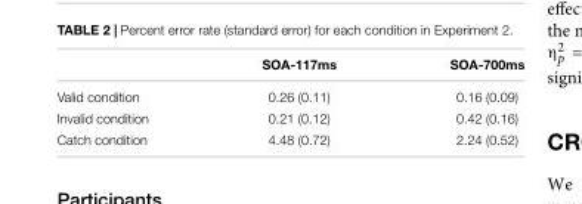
<table><thead><tr><td></td><td>SOA-117ms</td><td>SOA-700ms</td></tr></thead><tbody><tr><td>Valid condition</td><td>0.26 (0.11)</td><td>0.16 (0.09)</td></tr><tr><td>Invalid condition</td><td>0.21 (0.12)</td><td>0.42 (0.16)</td></tr><tr><td>Catch condition</td><td>4.48 (0.72)</td><td>2.24 (0.52)</td></tr></tbody></table>